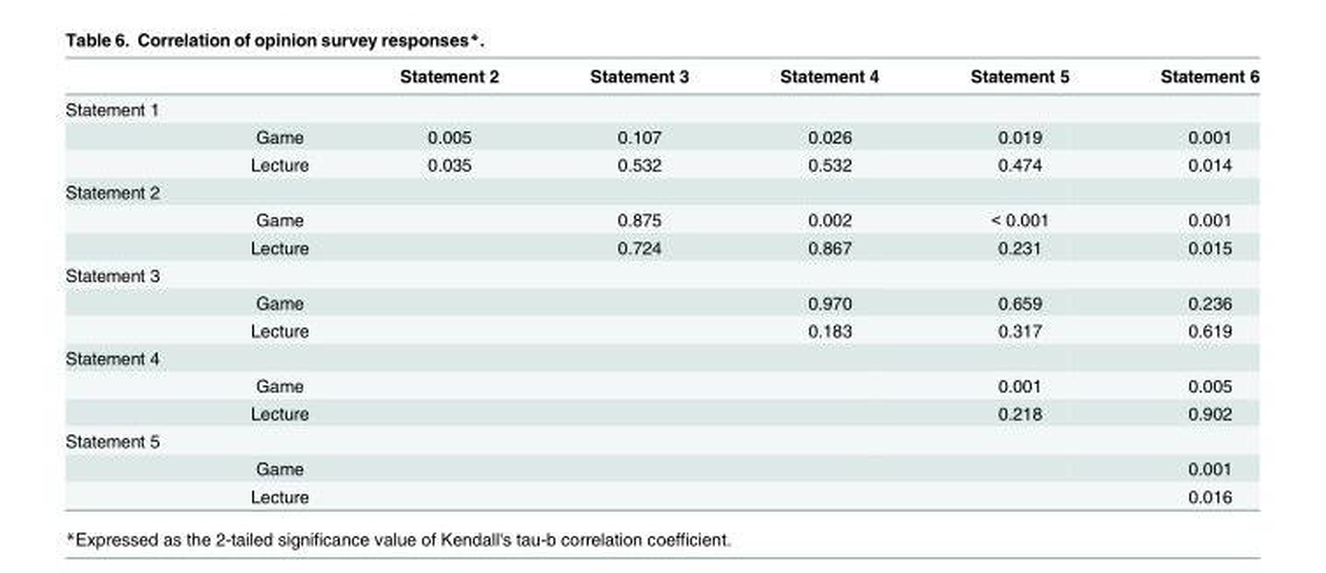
<table><thead><tr><td></td><td></td><td>Statement 2</td><td>Statement 3</td><td>Statement 4</td><td>Statement 5</td><td>Statement 6</td></tr></thead><tbody><tr><td colspan="7">Statement 1</td></tr><tr><td></td><td>Game</td><td>0.005</td><td>0.107</td><td>0.026</td><td>0.019</td><td>0.001</td></tr><tr><td></td><td>Lecture</td><td>0.035</td><td>0.532</td><td>0.532</td><td>0.474</td><td>0.014</td></tr><tr><td colspan="7">Statement 2</td></tr><tr><td></td><td>Game</td><td></td><td>0.875</td><td>0.002</td><td>&lt; 0.001</td><td>0.001</td></tr><tr><td></td><td>Lecture</td><td></td><td>0.724</td><td>0.867</td><td>0.231</td><td>0.015</td></tr><tr><td colspan="7">Statement 3</td></tr><tr><td></td><td>Game</td><td></td><td></td><td>0.970</td><td>0.659</td><td>0.236</td></tr><tr><td></td><td>Lecture</td><td></td><td></td><td>0.183</td><td>0.317</td><td>0.619</td></tr><tr><td colspan="7">Statement 4</td></tr><tr><td></td><td>Game</td><td></td><td></td><td></td><td>0.001</td><td>0.005</td></tr><tr><td></td><td>Lecture</td><td></td><td></td><td></td><td>0.218</td><td>0.902</td></tr><tr><td colspan="7">Statement 5</td></tr><tr><td></td><td>Game</td><td></td><td></td><td></td><td></td><td>0.001</td></tr><tr><td></td><td>Lecture</td><td></td><td></td><td></td><td></td><td>0.016</td></tr></tbody></table>